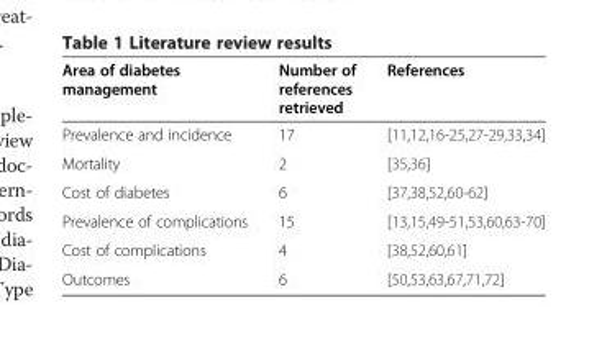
<table><thead><tr><td>Area of diabetes management</td><td>Number of references retrieved</td><td>References</td></tr></thead><tbody><tr><td>Prevalence and incidence</td><td>17</td><td>[11,12,16-25,27-29,33,34]</td></tr><tr><td>Mortality</td><td>2</td><td>[35,36]</td></tr><tr><td>Cost of diabetes</td><td>6</td><td>[37,38,52,60-62]</td></tr><tr><td>Prevalence of complications</td><td>15</td><td>[13,15,49-51,53,60,63-70]</td></tr><tr><td>Cost of complications</td><td>4</td><td>[38,52,60,61]</td></tr><tr><td>Outcomes</td><td>6</td><td>[50,53,63,67,71,72]</td></tr></tbody></table>